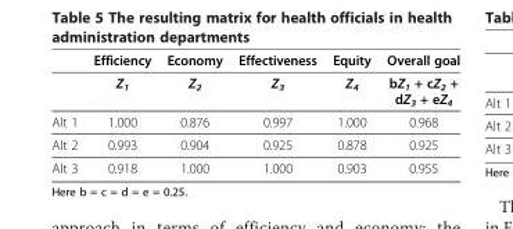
<table><thead><tr><td></td><td>Efficiency</td><td>Economy</td><td>Effectiveness</td><td>Equity</td><td>Overall goal</td></tr></thead><tbody><tr><td></td><td>Z<sub>1</sub></td><td>Z<sub>2</sub></td><td>Z<sub>3</sub></td><td>Z<sub>4</sub></td><td>bZ1 + cZ2 + dZ3 + eZ4</td></tr><tr><td>Alt 1</td><td>1.000</td><td>0.876</td><td>0.997</td><td>1.000</td><td>0.968</td></tr><tr><td>Alt 2</td><td>0.993</td><td>0.904</td><td>0.925</td><td>0.878</td><td>0.925</td></tr><tr><td>Alt 3</td><td>0.918</td><td>1.000</td><td>1.000</td><td>0.903</td><td>0.955</td></tr></tbody></table>